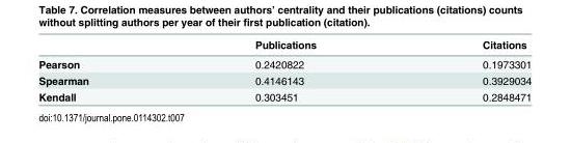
<table><thead><tr><td></td><td>Publications</td><td>Citations</td></tr></thead><tbody><tr><td>Pearson</td><td>0.2420822</td><td>0.1973301</td></tr><tr><td>Spearman</td><td>0.4146143</td><td>0.3929034</td></tr><tr><td>Kendall</td><td>0.303451</td><td>0.2848471</td></tr></tbody></table>